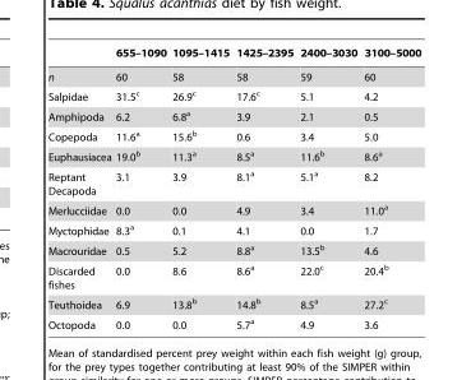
<table><thead><tr><td></td><td>655–1090</td><td>1095–1415</td><td>1425–2395</td><td>2400–3030</td><td>3100–5000</td></tr></thead><tbody><tr><td>n</td><td>60</td><td>58</td><td>58</td><td>59</td><td>60</td></tr><tr><td>Salpidae</td><td>31.5<sup>c</sup></td><td>26.9<sup>c</sup></td><td>17.6<sup>c</sup></td><td>5.1</td><td>4.2</td></tr><tr><td>Amphipoda</td><td>6.2</td><td>6.8<sup>a</sup></td><td>3.9</td><td>2.1</td><td>0.5</td></tr><tr><td>Copepoda</td><td>11.6<sup>a</sup></td><td>15.6<sup>b</sup></td><td>0.6</td><td>3.4</td><td>5.0</td></tr><tr><td>Euphausiacea</td><td>19.0<sup>b</sup></td><td>11.3<sup>a</sup></td><td>8.5<sup>a</sup></td><td>11.6<sup>b</sup></td><td>8.6<sup>a</sup></td></tr><tr><td>Reptant Decapoda</td><td>3.1</td><td>3.9</td><td>8.1<sup>a</sup></td><td>5.1<sup>a</sup></td><td>8.2</td></tr><tr><td>Merlucciidae</td><td>0.0</td><td>0.0</td><td>4.9</td><td>3.4</td><td>11.0<sup>a</sup></td></tr><tr><td>Myctophidae</td><td>8.3<sup>a</sup></td><td>0.1</td><td>4.1</td><td>0.0</td><td>1.7</td></tr><tr><td>Macrouridae</td><td>0.5</td><td>5.2</td><td>8.8<sup>a</sup></td><td>13.5<sup>b</sup></td><td>4.6</td></tr><tr><td>Discarded fishes</td><td>0.0</td><td>8.6</td><td>8.6<sup>a</sup></td><td>22.0<sup>c</sup></td><td>20.4<sup>b</sup></td></tr><tr><td>Teuthoidea</td><td>6.9</td><td>13.8<sup>b</sup></td><td>14.8<sup>b</sup></td><td>8.5<sup>a</sup></td><td>27.2<sup>c</sup></td></tr><tr><td>Octopoda</td><td>0.0</td><td>0.0</td><td>5.7<sup>a</sup></td><td>4.9</td><td>3.6</td></tr></tbody></table>